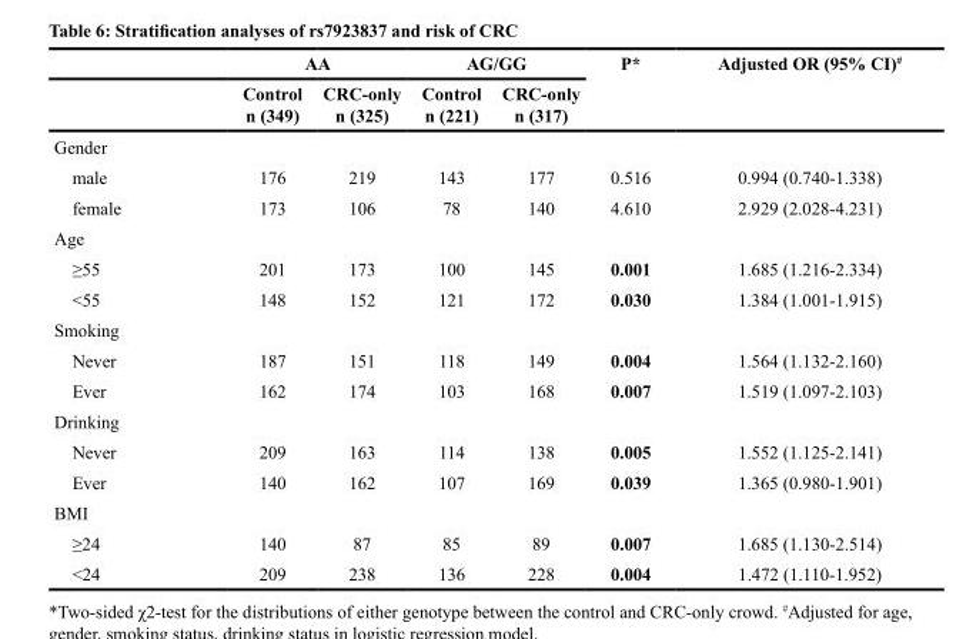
<table><thead><tr><td rowspan="2"></td><td colspan="2">AA</td><td colspan="2">AG/GG</td><td rowspan="2">P*</td><td rowspan="2">Adjusted OR (95% CI)<sup>#</sup></td></tr><tr><td>Control n (349)</td><td>CRC-only n (325)</td><td>Control n (221)</td><td>CRC-only n (317)</td></tr></thead><tbody><tr><td colspan="7">Gender</td></tr><tr><td>male</td><td>176</td><td>219</td><td>143</td><td>177</td><td>0.516</td><td>0.994 (0.740-1.338)</td></tr><tr><td>female</td><td>173</td><td>106</td><td>78</td><td>140</td><td>4.610</td><td>2.929 (2.028-4.231)</td></tr><tr><td colspan="7">Age</td></tr><tr><td>≥55</td><td>201</td><td>173</td><td>100</td><td>145</td><td>0.001</td><td>1.685 (1.216-2.334)</td></tr><tr><td>&lt;55</td><td>148</td><td>152</td><td>121</td><td>172</td><td>0.030</td><td>1.384 (1.001-1.915)</td></tr><tr><td colspan="7">Smoking</td></tr><tr><td>Never</td><td>187</td><td>151</td><td>118</td><td>149</td><td>0.004</td><td>1.564 (1.132-2.160)</td></tr><tr><td>Ever</td><td>162</td><td>174</td><td>103</td><td>168</td><td>0.007</td><td>1.519 (1.097-2.103)</td></tr><tr><td colspan="7">Drinking</td></tr><tr><td>Never</td><td>209</td><td>163</td><td>114</td><td>138</td><td>0.005</td><td>1.552 (1.125-2.141)</td></tr><tr><td>Ever</td><td>140</td><td>162</td><td>107</td><td>169</td><td>0.039</td><td>1.365 (0.980-1.901)</td></tr><tr><td colspan="7">BMI</td></tr><tr><td>≥24</td><td>140</td><td>87</td><td>85</td><td>89</td><td>0.007</td><td>1.685 (1.130-2.514)</td></tr><tr><td>&lt;24</td><td>209</td><td>238</td><td>136</td><td>228</td><td>0.004</td><td>1.472 (1.110-1.952)</td></tr></tbody></table>